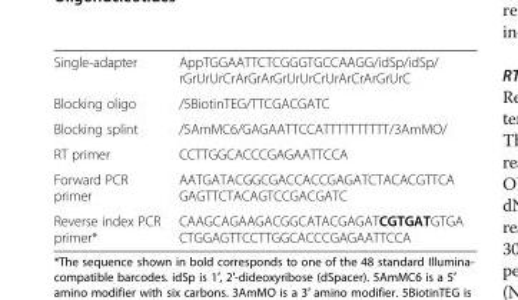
<table><tbody><tr><td>Single-adapter</td><td>AppTGGAATTCTCGGGTGCCAAGG/idSp/idSp/ rGrUrUrCrArGrArGrUrUrCrUrArCrArGrUrC</td></tr><tr><td>Blocking oligo</td><td>/5BiotinTEG/TTCGACGATC</td></tr><tr><td>Blocking splint</td><td>/5AmMC6/GAGAATTCCATTTTTTTTTT/3AmMO/</td></tr><tr><td>RT primer</td><td>CCTTGGCACCCGAGAATTCCA</td></tr><tr><td>Forward PCR primer</td><td>AATGATACGGCGACCACCGAGATCTACACGTTCA GAGTTCTACAGTCCGACGATC</td></tr><tr><td>Reverse index PCR primer*</td><td>CAAGCAGAAGACGGCATACGAGATCGTGATGTGA CTGGAGTTCCTTGGCACCCGAGAATTCCA</td></tr></tbody></table>